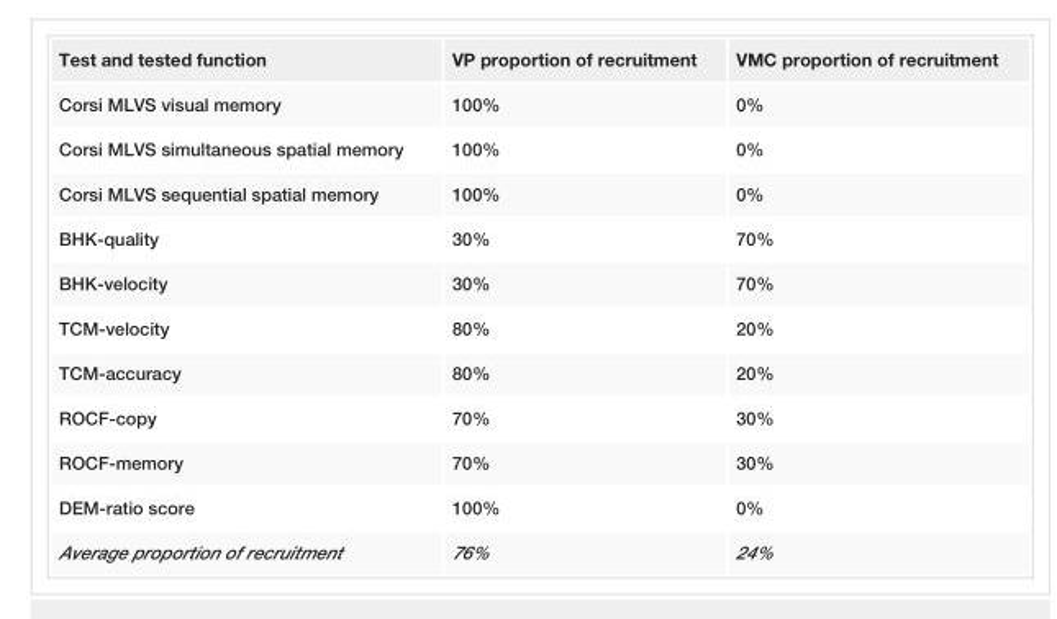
<table><tbody><tr><td>Test and tested function</td><td>VP proportion of recruitment</td><td>VMC proportion of recruitment</td></tr><tr><td>Corsi MLVS visual memory</td><td>100%</td><td>0%</td></tr><tr><td>Corsi MLVS simultaneous spatial memory</td><td>100%</td><td>0%</td></tr><tr><td>Corsi MLVS sequential spatial memory</td><td>100%</td><td>0%</td></tr><tr><td>BHK-quality</td><td>30%</td><td>70%</td></tr><tr><td>BHK-velocity</td><td>30%</td><td>70%</td></tr><tr><td>TCM-velocity</td><td>80%</td><td>20%</td></tr><tr><td>TCM-accuracy</td><td>80%</td><td>20%</td></tr><tr><td>ROCF-copy</td><td>70%</td><td>30%</td></tr><tr><td>ROCF-memory</td><td>70%</td><td>30%</td></tr><tr><td>DEM-ratio score</td><td>100%</td><td>0%</td></tr><tr><td>Average proportion of recruitment</td><td>76%</td><td>24%</td></tr></tbody></table>